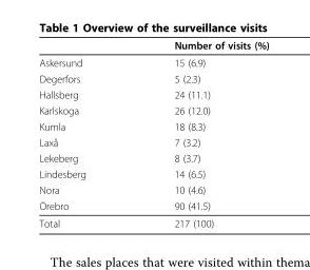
<table><thead><tr><td></td><td>Number of visits (%)</td></tr></thead><tbody><tr><td>Askersund</td><td>15 (6.9)</td></tr><tr><td>Degerfors</td><td>5 (2.3)</td></tr><tr><td>Hallsberg</td><td>24 (11.1)</td></tr><tr><td>Karlskoga</td><td>26 (12.0)</td></tr><tr><td>Kumla</td><td>18 (8.3)</td></tr><tr><td>Laxå</td><td>7 (3.2)</td></tr><tr><td>Lekeberg</td><td>8 (3.7)</td></tr><tr><td>Lindesberg</td><td>14 (6.5)</td></tr><tr><td>Nora</td><td>10 (4.6)</td></tr><tr><td>Örebro</td><td>90 (41.5)</td></tr><tr><td>Total</td><td>217 (100)</td></tr></tbody></table>